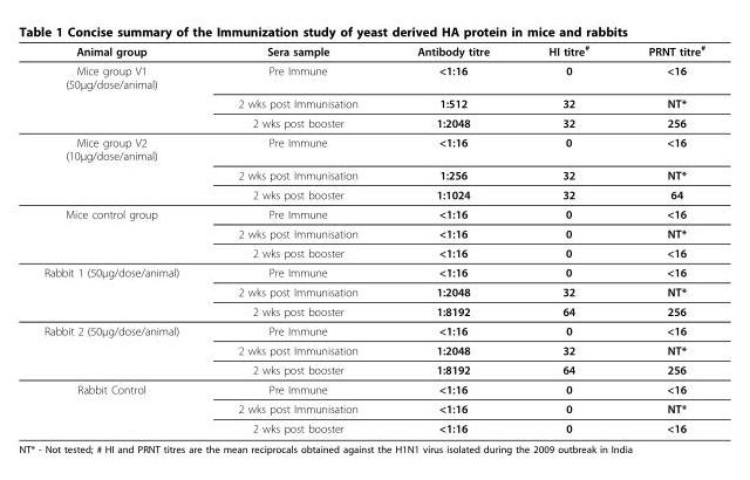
<table><thead><tr><td>Animal group</td><td>Sera sample</td><td>Antibody titre</td><td>HI titre<sup>#</sup></td><td>PRNT titre<sup>#</sup></td></tr></thead><tbody><tr><td rowspan="3">Mice group V1 (50μg/dose/animal)</td><td>Pre Immune</td><td>&lt;1:16</td><td>0</td><td>&lt;16</td></tr><tr><td>2 wks post Immunisation</td><td>1:512</td><td>32</td><td>NT*</td></tr><tr><td>2 wks post booster</td><td>1:2048</td><td>32</td><td>256</td></tr><tr><td rowspan="3">Mice group V2 (10μg/dose/animal)</td><td>Pre Immune</td><td>&lt;1:16</td><td>0</td><td>&lt;16</td></tr><tr><td>2 wks post Immunisation</td><td>1:256</td><td>32</td><td>NT*</td></tr><tr><td>2 wks post booster</td><td>1:1024</td><td>32</td><td>64</td></tr><tr><td rowspan="3">Mice control group</td><td>Pre Immune</td><td>&lt;1:16</td><td>0</td><td>&lt;16</td></tr><tr><td>2 wks post Immunisation</td><td>&lt;1:16</td><td>0</td><td>NT*</td></tr><tr><td>2 wks post booster</td><td>&lt;1:16</td><td>0</td><td>&lt;16</td></tr><tr><td rowspan="3">Rabbit 1 (50μg/dose/animal)</td><td>Pre Immune</td><td>&lt;1:16</td><td>0</td><td>&lt;16</td></tr><tr><td>2 wks post Immunisation</td><td>1:2048</td><td>32</td><td>NT*</td></tr><tr><td>2 wks post booster</td><td>1:8192</td><td>64</td><td>256</td></tr><tr><td rowspan="3">Rabbit 2 (50μg/dose/animal)</td><td>Pre Immune</td><td>&lt;1:16</td><td>0</td><td>&lt;16</td></tr><tr><td>2 wks post Immunisation</td><td>1:2048</td><td>32</td><td>NT*</td></tr><tr><td>2 wks post booster</td><td>1:8192</td><td>64</td><td>256</td></tr><tr><td rowspan="3">Rabbit Control</td><td>Pre Immune</td><td>&lt;1:16</td><td>0</td><td>&lt;16</td></tr><tr><td>2 wks post Immunisation</td><td>&lt;1:16</td><td>0</td><td>NT*</td></tr><tr><td>2 wks post booster</td><td>&lt;1:16</td><td>0</td><td>&lt;16</td></tr></tbody></table>